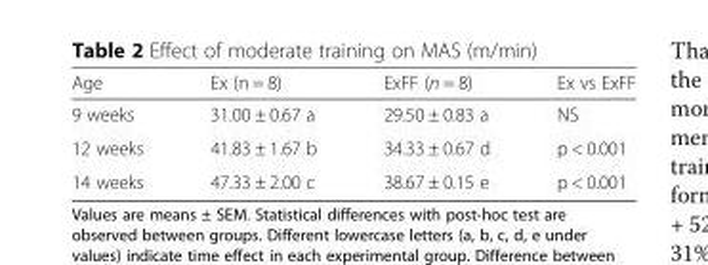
<table><thead><tr><td>Age</td><td>Ex (n = 8)</td><td>ExFF (n = 8)</td><td>Ex vs ExFF</td></tr></thead><tbody><tr><td>9 weeks</td><td>31.00 ± 0.67 a</td><td>29.50 ± 0.83 a</td><td>NS</td></tr><tr><td>12 weeks</td><td>41.83 ± 1.67 b</td><td>34.33 ± 0.67 d</td><td>p &lt; 0.001</td></tr><tr><td>14 weeks</td><td>47.33 ± 2.00 c</td><td>38.67 ± 0.15 e</td><td>p &lt; 0.001</td></tr></tbody></table>